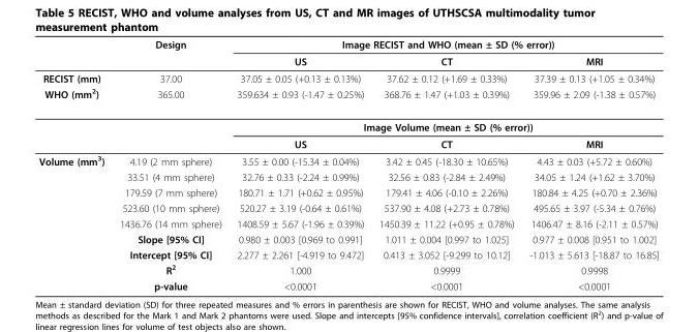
<table><thead><tr><td rowspan="2"></td><td rowspan="2">Design</td><td colspan="3">Image RECIST and WHO (mean ± SD (% error))</td></tr><tr><td>US</td><td>CT</td><td>MRI</td></tr></thead><tbody><tr><td>RECIST (mm)</td><td>37.00</td><td>37.05 ± 0.05 (+0.13 ± 0.13%)</td><td>37.62 ± 0.12 (+1.69 ± 0.33%)</td><td>37.39 ± 0.13 (+1.05 ± 0.34%)</td></tr><tr><td rowspan="3">WHO (mm<sup>2</sup>)</td><td>365.00</td><td>359.634 ± 0.93 (-1.47 ± 0.25%)</td><td>368.76 ± 1.47 (+1.03 ± 0.39%)</td><td>359.96 ± 2.09 (-1.38 ± 0.57%)</td></tr><tr><td></td><td colspan="3">Image Volume (mean ± SD (% error))</td></tr><tr><td></td><td>US</td><td>CT</td><td>MRI</td></tr><tr><td rowspan="9">Volume (mm<sup>3</sup>)</td><td>4.19 (2 mm sphere)</td><td>3.55 ± 0.00 (-15.34 ± 0.04%)</td><td>3.42 ± 0.45 (-18.30 ± 10.65%)</td><td>4.43 ± 0.03 (+5.72 ± 0.60%)</td></tr><tr><td>33.51 (4 mm sphere)</td><td>32.76 ± 0.33 (-2.24 ± 0.99%)</td><td>32.56 ± 0.83 (-2.84 ± 2.49%)</td><td>34.05 ± 1.24 (+1.62 ± 3.70%)</td></tr><tr><td>179.59 (7 mm sphere)</td><td>180.71 ± 1.71 (+0.62 ± 0.95%)</td><td>179.41 ± 4.06 (-0.10 ± 2.26%)</td><td>180.84 ± 4.25 (+0.70 ± 2.36%)</td></tr><tr><td>523.60 (10 mm sphere)</td><td>520.27 ± 3.19 (-0.64 ± 0.61%)</td><td>537.90 ± 4.08 (+2.73 ± 0.78%)</td><td>495.65 ± 3.97 (-5.34 ± 0.76%)</td></tr><tr><td>1436.76 (14 mm sphere)</td><td>1408.59 ± 5.67 (-1.96 ± 0.39%)</td><td>1450.39 ± 11.22 (+0.95 ± 0.78%)</td><td>1406.47 ± 8.16 (-2.11 ± 0.57%)</td></tr><tr><td>Slope [95% CI]</td><td>0.980 ± 0.003 [0.969 to 0.991]</td><td>1.011 ± 0.004 [0.997 to 1.025]</td><td>0.977 ± 0.008 [0.951 to 1.002]</td></tr><tr><td>Intercept [95% CI]</td><td>2.277 ± 2.261 [-4.919 to 9.472]</td><td>0.413 ± 3.052 [-9.299 to 10.12]</td><td>-1.013 ± 5.613 [-18.87 to 16.85]</td></tr><tr><td>R<sup>2</sup></td><td>1.000</td><td>0.9999</td><td>0.9998</td></tr><tr><td>p-value</td><td>&lt;0.0001</td><td>&lt;0.0001</td><td>&lt;0.0001</td></tr></tbody></table>